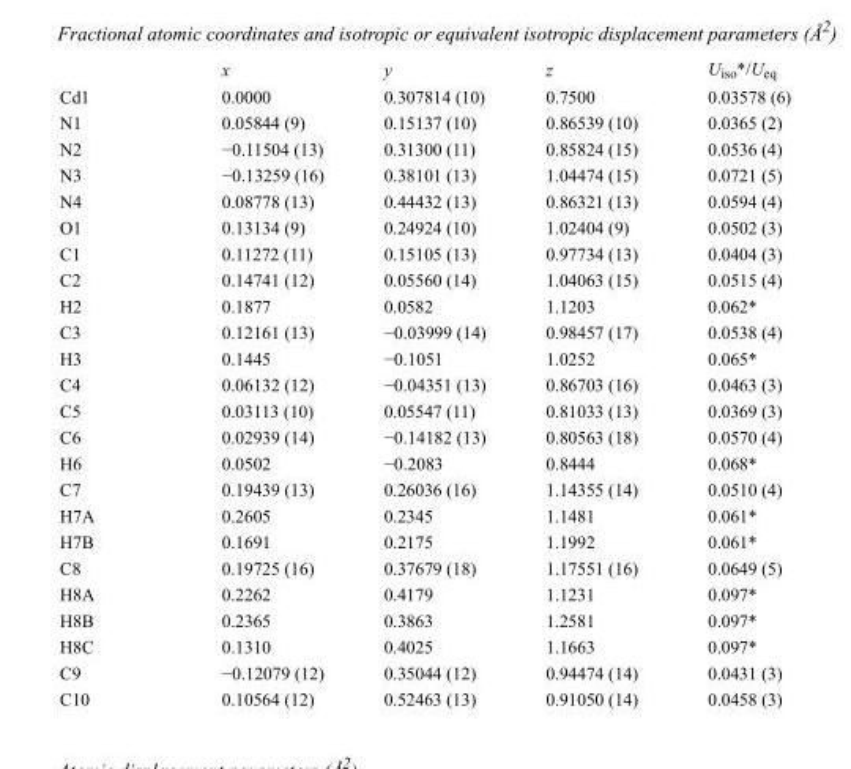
<table><thead><tr><td></td><td>x</td><td>y</td><td>z</td><td>U<sub>iso</sub>*/U<sub>eq</sub></td></tr></thead><tbody><tr><td>Cd1</td><td>0.0000</td><td>0.307814 (10)</td><td>0.7500</td><td>0.03578 (6)</td></tr><tr><td>N1</td><td>0.05844 (9)</td><td>0.15137 (10)</td><td>0.86539 (10)</td><td>0.0365 (2)</td></tr><tr><td>N2</td><td>−0.11504 (13)</td><td>0.31300 (11)</td><td>0.85824 (15)</td><td>0.0536 (4)</td></tr><tr><td>N3</td><td>−0.13259 (16)</td><td>0.38101 (13)</td><td>1.04474 (15)</td><td>0.0721 (5)</td></tr><tr><td>N4</td><td>0.08778 (13)</td><td>0.44432 (13)</td><td>0.86321 (13)</td><td>0.0594 (4)</td></tr><tr><td>O1</td><td>0.13134 (9)</td><td>0.24924 (10)</td><td>1.02404 (9)</td><td>0.0502 (3)</td></tr><tr><td>C1</td><td>0.11272 (11)</td><td>0.15105 (13)</td><td>0.97734 (13)</td><td>0.0404 (3)</td></tr><tr><td>C2</td><td>0.14741 (12)</td><td>0.05560 (14)</td><td>1.04063 (15)</td><td>0.0515 (4)</td></tr><tr><td>H2</td><td>0.1877</td><td>0.0582</td><td>1.1203</td><td>0.062*</td></tr><tr><td>C3</td><td>0.12161 (13)</td><td>−0.03999 (14)</td><td>0.98457 (17)</td><td>0.0538 (4)</td></tr><tr><td>H3</td><td>0.1445</td><td>−0.1051</td><td>1.0252</td><td>0.065*</td></tr><tr><td>C4</td><td>0.06132 (12)</td><td>−0.04351 (13)</td><td>0.86703 (16)</td><td>0.0463 (3)</td></tr><tr><td>C5</td><td>0.03113 (10)</td><td>0.05547 (11)</td><td>0.81033 (13)</td><td>0.0369 (3)</td></tr><tr><td>C6</td><td>0.02939 (14)</td><td>−0.14182 (13)</td><td>0.80563 (18)</td><td>0.0570 (4)</td></tr><tr><td>H6</td><td>0.0502</td><td>−0.2083</td><td>0.8444</td><td>0.068*</td></tr><tr><td>C7</td><td>0.19439 (13)</td><td>0.26036 (16)</td><td>1.14355 (14)</td><td>0.0510 (4)</td></tr><tr><td>H7A</td><td>0.2605</td><td>0.2345</td><td>1.1481</td><td>0.061*</td></tr><tr><td>H7B</td><td>0.1691</td><td>0.2175</td><td>1.1992</td><td>0.061*</td></tr><tr><td>C8</td><td>0.19725 (16)</td><td>0.37679 (18)</td><td>1.17551 (16)</td><td>0.0649 (5)</td></tr><tr><td>H8A</td><td>0.2262</td><td>0.4179</td><td>1.1231</td><td>0.097*</td></tr><tr><td>H8B</td><td>0.2365</td><td>0.3863</td><td>1.2581</td><td>0.097*</td></tr><tr><td>H8C</td><td>0.1310</td><td>0.4025</td><td>1.1663</td><td>0.097*</td></tr><tr><td>C9</td><td>−0.12079 (12)</td><td>0.35044 (12)</td><td>0.94474 (14)</td><td>0.0431 (3)</td></tr><tr><td>C10</td><td>0.10564 (12)</td><td>0.52463 (13)</td><td>0.91050 (14)</td><td>0.0458 (3)</td></tr></tbody></table>